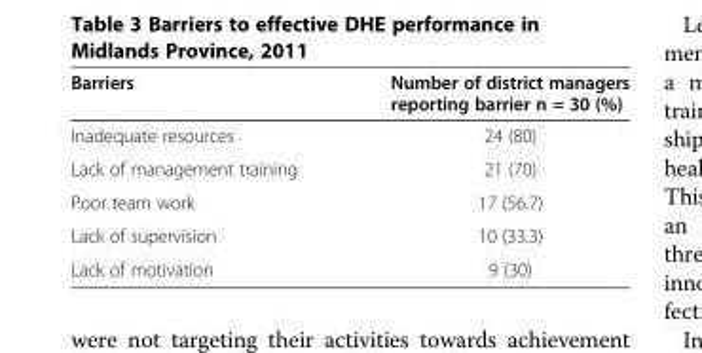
<table><thead><tr><td>Barriers</td><td>Number of district managers reporting barrier n = 30 (%)</td></tr></thead><tbody><tr><td>Inadequate resources</td><td>24 (80)</td></tr><tr><td>Lack of management training</td><td>21 (70)</td></tr><tr><td>Poor team work</td><td>17 (56.7)</td></tr><tr><td>Lack of supervision</td><td>10 (33.3)</td></tr><tr><td>Lack of motivation</td><td>9 (30)</td></tr></tbody></table>